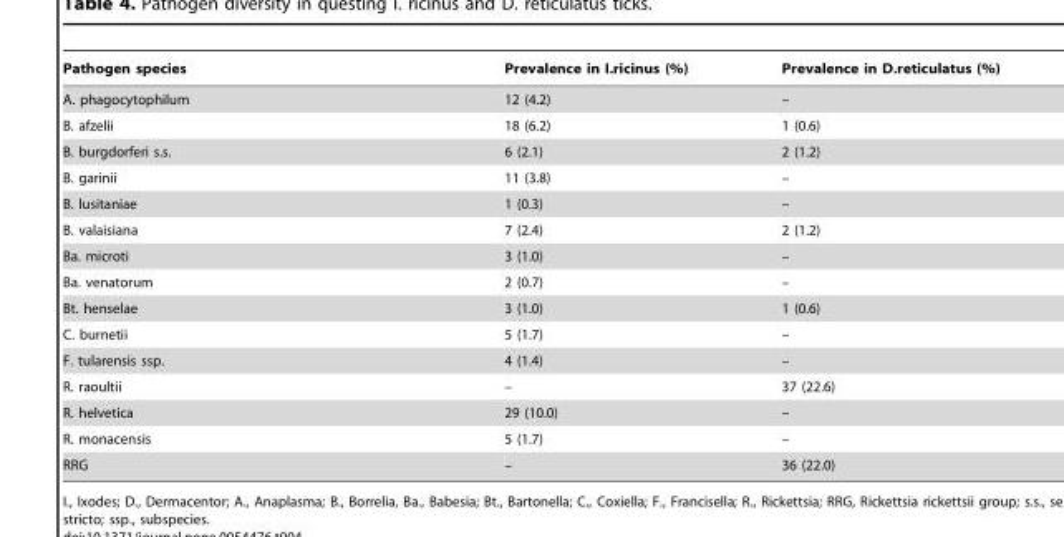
<table><thead><tr><td>Pathogen species</td><td>Prevalence in I.ricinus (%)</td><td>Prevalence in D.reticulatus (%)</td></tr></thead><tbody><tr><td>A. phagocytophilum</td><td>12 (4.2)</td><td>–</td></tr><tr><td>B. afzelii</td><td>18 (6.2)</td><td>1 (0.6)</td></tr><tr><td>B. burgdorferi s.s.</td><td>6 (2.1)</td><td>2 (1.2)</td></tr><tr><td>B. garinii</td><td>11 (3.8)</td><td>–</td></tr><tr><td>B. lusitaniae</td><td>1 (0.3)</td><td>–</td></tr><tr><td>B. valaisiana</td><td>7 (2.4)</td><td>2 (1.2)</td></tr><tr><td>Ba. microti</td><td>3 (1.0)</td><td>–</td></tr><tr><td>Ba. venatorum</td><td>2 (0.7)</td><td>–</td></tr><tr><td>Bt. henselae</td><td>3 (1.0)</td><td>1 (0.6)</td></tr><tr><td>C. burnetii</td><td>5 (1.7)</td><td>–</td></tr><tr><td>F. tularensis ssp.</td><td>4 (1.4)</td><td>–</td></tr><tr><td>R. raoultii</td><td>–</td><td>37 (22.6)</td></tr><tr><td>R. helvetica</td><td>29 (10.0)</td><td>–</td></tr><tr><td>R. monacensis</td><td>5 (1.7)</td><td>–</td></tr><tr><td>RRG</td><td>–</td><td>36 (22.0)</td></tr></tbody></table>